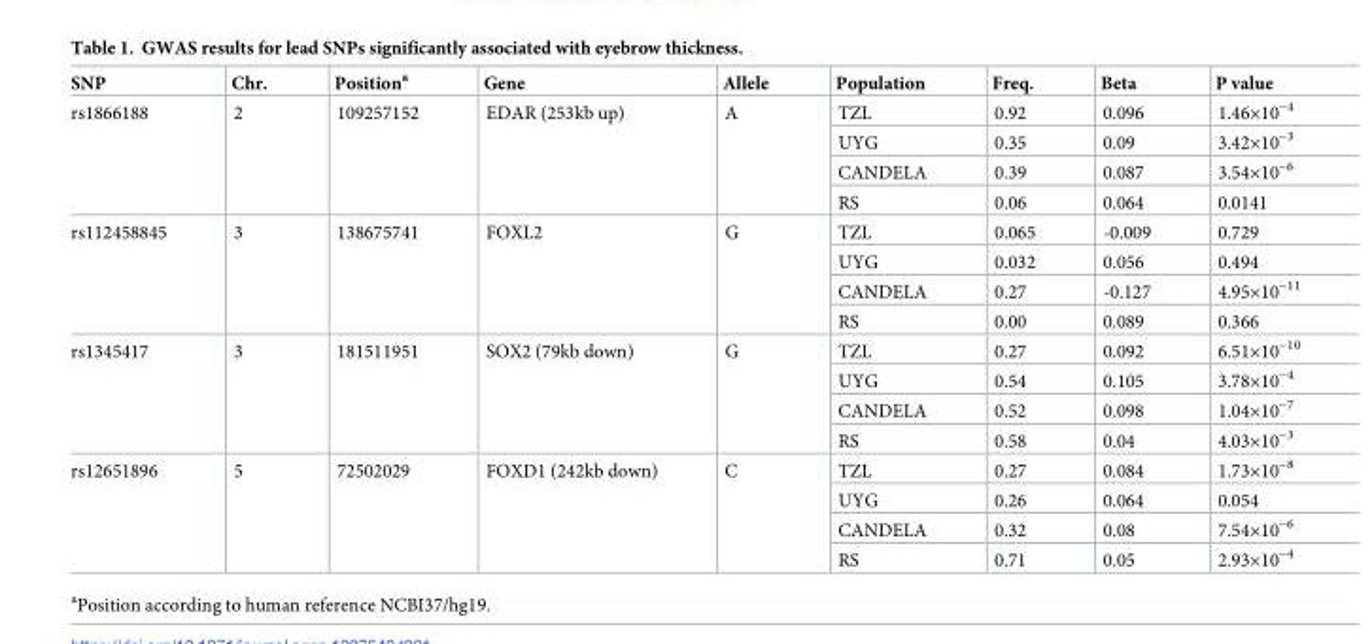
<table><thead><tr><td>SNP</td><td>Chr.</td><td>Position<sup>a</sup></td><td>Gene</td><td>Allele</td><td>Population</td><td>Freq.</td><td>Beta</td><td>P value</td></tr></thead><tbody><tr><td rowspan="4">rs1866188</td><td rowspan="4">2</td><td rowspan="4">109257152</td><td rowspan="4">EDAR (253kb up)</td><td rowspan="4">A</td><td>TZL</td><td>0.92</td><td>0.096</td><td>1.46×10<sup>−4</sup></td></tr><tr><td>UYG</td><td>0.35</td><td>0.09</td><td>3.42×10<sup>−3</sup></td></tr><tr><td>CANDELA</td><td>0.39</td><td>0.087</td><td>3.54×10<sup>−6</sup></td></tr><tr><td>RS</td><td>0.06</td><td>0.064</td><td>0.0141</td></tr><tr><td rowspan="4">rs112458845</td><td rowspan="4">3</td><td rowspan="4">138675741</td><td rowspan="4">FOXL2</td><td rowspan="4">G</td><td>TZL</td><td>0.065</td><td>-0.009</td><td>0.729</td></tr><tr><td>UYG</td><td>0.032</td><td>0.056</td><td>0.494</td></tr><tr><td>CANDELA</td><td>0.27</td><td>-0.127</td><td>4.95×10<sup>−11</sup></td></tr><tr><td>RS</td><td>0.00</td><td>0.089</td><td>0.366</td></tr><tr><td rowspan="4">rs1345417</td><td rowspan="4">3</td><td rowspan="4">181511951</td><td rowspan="4">SOX2 (79kb down)</td><td rowspan="4">G</td><td>TZL</td><td>0.27</td><td>0.092</td><td>6.51×10<sup>−10</sup></td></tr><tr><td>UYG</td><td>0.54</td><td>0.105</td><td>3.78×10<sup>−4</sup></td></tr><tr><td>CANDELA</td><td>0.52</td><td>0.098</td><td>1.04×10<sup>−7</sup></td></tr><tr><td>RS</td><td>0.58</td><td>0.04</td><td>4.03×10<sup>−3</sup></td></tr><tr><td rowspan="4">rs12651896</td><td rowspan="4">5</td><td rowspan="4">72502029</td><td rowspan="4">FOXD1 (242kb down)</td><td rowspan="4">C</td><td>TZL</td><td>0.27</td><td>0.084</td><td>1.73×10<sup>−8</sup></td></tr><tr><td>UYG</td><td>0.26</td><td>0.064</td><td>0.054</td></tr><tr><td>CANDELA</td><td>0.32</td><td>0.08</td><td>7.54×10<sup>−6</sup></td></tr><tr><td>RS</td><td>0.71</td><td>0.05</td><td>2.93×10<sup>−4</sup></td></tr></tbody></table>